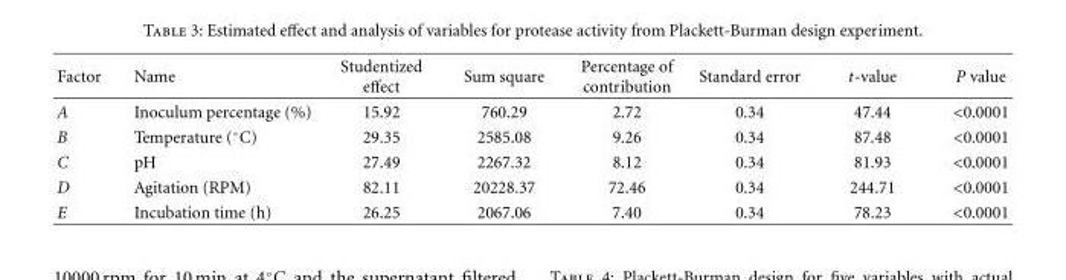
<table><thead><tr><td>Factor</td><td>Name</td><td>Studentized effect</td><td>Sum square</td><td>Percentage of contribution</td><td>Standard error</td><td>t-value</td><td>P value</td></tr></thead><tbody><tr><td>A</td><td>Inoculum percentage (%)</td><td>15.92</td><td>760.29</td><td>2.72</td><td>0.34</td><td>47.44</td><td>&lt;0.0001</td></tr><tr><td>B</td><td>Temperature (◦C)</td><td>29.35</td><td>2585.08</td><td>9.26</td><td>0.34</td><td>87.48</td><td>&lt;0.0001</td></tr><tr><td>C</td><td>pH</td><td>27.49</td><td>2267.32</td><td>8.12</td><td>0.34</td><td>81.93</td><td>&lt;0.0001</td></tr><tr><td>D</td><td>Agitation (RPM)</td><td>82.11</td><td>20228.37</td><td>72.46</td><td>0.34</td><td>244.71</td><td>&lt;0.0001</td></tr><tr><td>E</td><td>Incubation time (h)</td><td>26.25</td><td>2067.06</td><td>7.40</td><td>0.34</td><td>78.23</td><td>&lt;0.0001</td></tr></tbody></table>